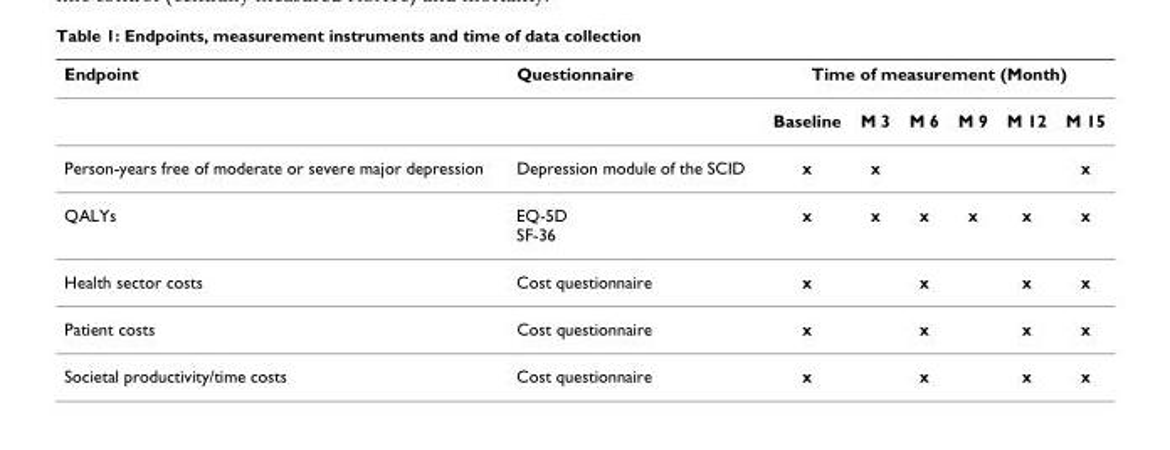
<table><thead><tr><td rowspan="2">Endpoint</td><td rowspan="2">Questionnaire</td><td colspan="6">Time of measurement (Month)</td></tr><tr><td>Baseline</td><td>M 3</td><td>M 6</td><td>M 9</td><td>M 12</td><td>M 15</td></tr></thead><tbody><tr><td>Person-years free of moderate or severe major depression</td><td>Depression module of the SCID</td><td>x</td><td>x</td><td></td><td></td><td></td><td>x</td></tr><tr><td>QALYs</td><td>EQ-5D SF-36</td><td>x</td><td>x</td><td>x</td><td>x</td><td>x</td><td>x</td></tr><tr><td>Health sector costs</td><td>Cost questionnaire</td><td>x</td><td></td><td>x</td><td></td><td>x</td><td>x</td></tr><tr><td>Patient costs</td><td>Cost questionnaire</td><td>x</td><td></td><td>x</td><td></td><td>x</td><td>x</td></tr><tr><td>Societal productivity/time costs</td><td>Cost questionnaire</td><td>x</td><td></td><td>x</td><td></td><td>x</td><td>x</td></tr></tbody></table>